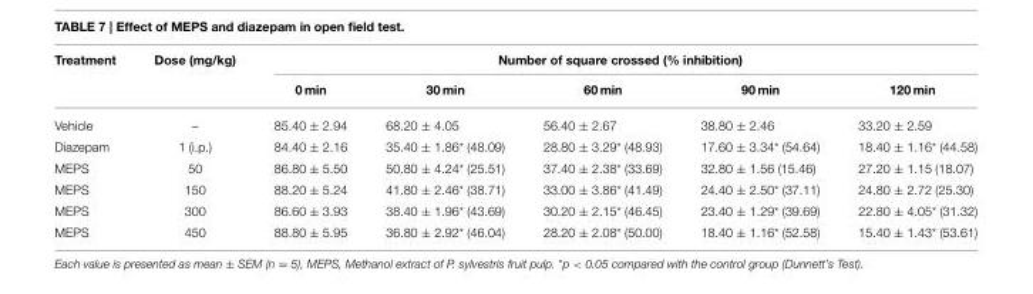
<table><thead><tr><td rowspan="2">Treatment</td><td rowspan="2">Dose (mg/kg)</td><td colspan="5">Number of square crossed (% inhibition)</td></tr><tr><td>0 min</td><td>30 min</td><td>60 min</td><td>90 min</td><td>120 min</td></tr></thead><tbody><tr><td>Vehicle</td><td>–</td><td>85.40 ± 2.94</td><td>68.20 ± 4.05</td><td>56.40 ± 2.67</td><td>38.80 ± 2.46</td><td>33.20 ± 2.59</td></tr><tr><td>Diazepam</td><td>1 (i.p.)</td><td>84.40 ± 2.16</td><td>35.40 ± 1.86* (48.09)</td><td>28.80 ± 3.29* (48.93)</td><td>17.60 ± 3.34* (54.64)</td><td>18.40 ± 1.16* (44.58)</td></tr><tr><td>MEPS</td><td>50</td><td>86.80 ± 5.50</td><td>50.80 ± 4.24* (25.51)</td><td>37.40 ± 2.38* (33.69)</td><td>32.80 ± 1.56 (15.46)</td><td>27.20 ± 1.15 (18.07)</td></tr><tr><td>MEPS</td><td>150</td><td>88.20 ± 5.24</td><td>41.80 ± 2.46* (38.71)</td><td>33.00 ± 3.86* (41.49)</td><td>24.40 ± 2.50* (37.11)</td><td>24.80 ± 2.72 (25.30)</td></tr><tr><td>MEPS</td><td>300</td><td>86.60 ± 3.93</td><td>38.40 ± 1.96* (43.69)</td><td>30.20 ± 2.15* (46.45)</td><td>23.40 ± 1.29* (39.69)</td><td>22.80 ± 4.05* (31.32)</td></tr><tr><td>MEPS</td><td>450</td><td>88.80 ± 5.95</td><td>36.80 ± 2.92* (46.04)</td><td>28.20 ± 2.08* (50.00)</td><td>18.40 ± 1.16* (52.58)</td><td>15.40 ± 1.43* (53.61)</td></tr></tbody></table>